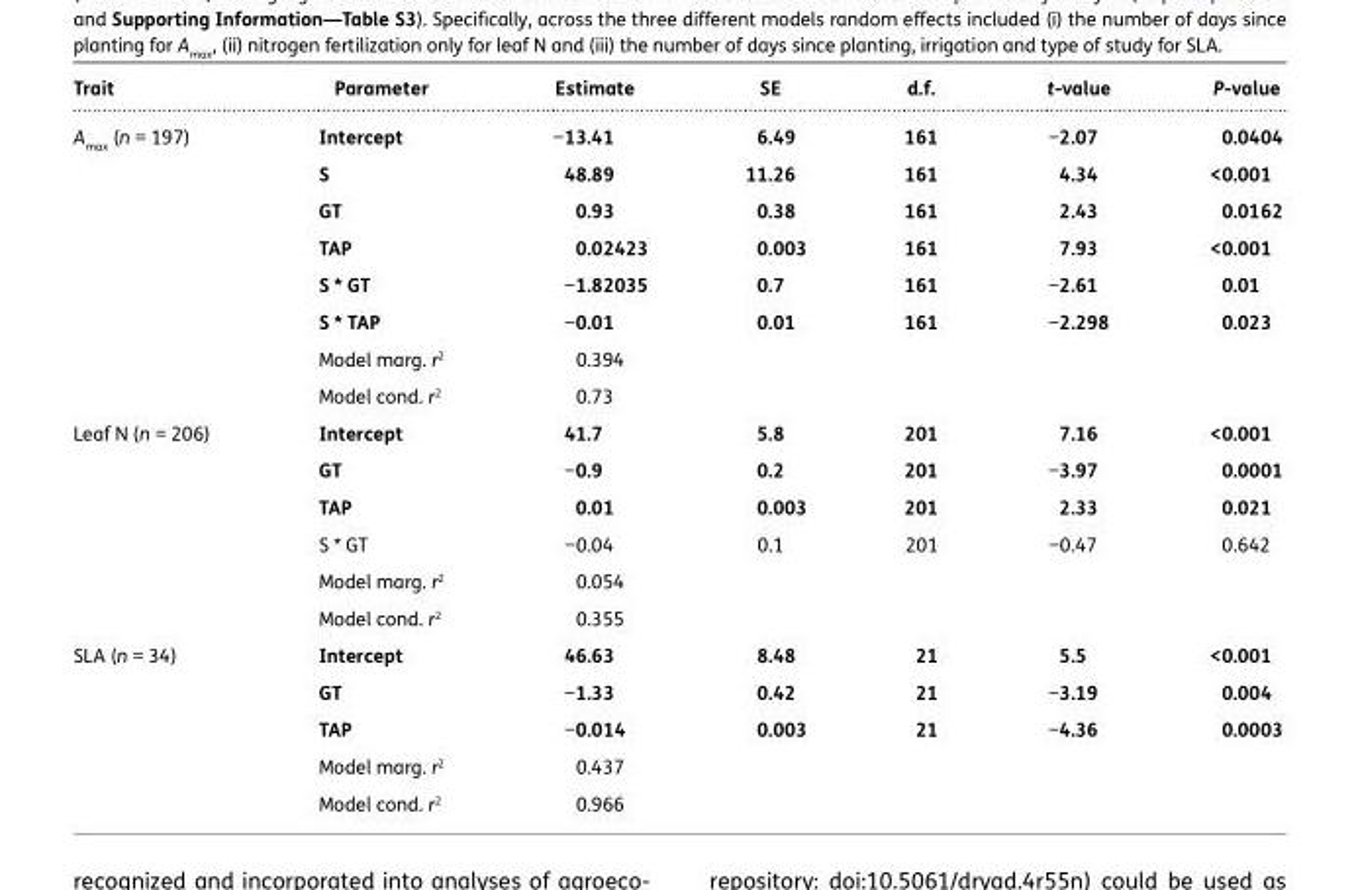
<table><thead><tr><td>Trait</td><td>Parameter</td><td>Estimate</td><td>SE</td><td>d.f.</td><td>t-value</td><td>P-value</td></tr></thead><tbody><tr><td rowspan="8">A<sub>max</sub> (n = 197)</td><td>Intercept</td><td>−13.41</td><td>6.49</td><td>161</td><td>−2.07</td><td>0.0404</td></tr><tr><td>S</td><td>48.89</td><td>11.26</td><td>161</td><td>4.34</td><td>&lt;0.001</td></tr><tr><td>GT</td><td>0.93</td><td>0.38</td><td>161</td><td>2.43</td><td>0.0162</td></tr><tr><td>TAP</td><td>0.02423</td><td>0.003</td><td>161</td><td>7.93</td><td>&lt;0.001</td></tr><tr><td>S * GT</td><td>−1.82035</td><td>0.7</td><td>161</td><td>−2.61</td><td>0.01</td></tr><tr><td>S * TAP</td><td>−0.01</td><td>0.01</td><td>161</td><td>−2.298</td><td>0.023</td></tr><tr><td>Model marg. r<sup>2</sup></td><td>0.394</td><td></td><td></td><td></td><td></td></tr><tr><td>Model cond. r<sup>2</sup></td><td>0.73</td><td></td><td></td><td></td><td></td></tr><tr><td rowspan="6">Leaf N (n = 206)</td><td>Intercept</td><td>41.7</td><td>5.8</td><td>201</td><td>7.16</td><td>&lt;0.001</td></tr><tr><td>GT</td><td>−0.9</td><td>0.2</td><td>201</td><td>−3.97</td><td>0.0001</td></tr><tr><td>TAP</td><td>0.01</td><td>0.003</td><td>201</td><td>2.33</td><td>0.021</td></tr><tr><td>S * GT</td><td>−0.04</td><td>0.1</td><td>201</td><td>−0.47</td><td>0.642</td></tr><tr><td>Model marg. r<sup>2</sup></td><td>0.054</td><td></td><td></td><td></td><td></td></tr><tr><td>Model cond. r<sup>2</sup></td><td>0.355</td><td></td><td></td><td></td><td></td></tr><tr><td rowspan="5">SLA (n = 34)</td><td>Intercept</td><td>46.63</td><td>8.48</td><td>21</td><td>5.5</td><td>&lt;0.001</td></tr><tr><td>GT</td><td>−1.33</td><td>0.42</td><td>21</td><td>−3.19</td><td>0.004</td></tr><tr><td>TAP</td><td>−0.014</td><td>0.003</td><td>21</td><td>−4.36</td><td>0.0003</td></tr><tr><td>Model marg. r<sup>2</sup></td><td>0.437</td><td></td><td></td><td></td><td></td></tr><tr><td>Model cond. r<sup>2</sup></td><td>0.966</td><td></td><td></td><td></td><td></td></tr></tbody></table>